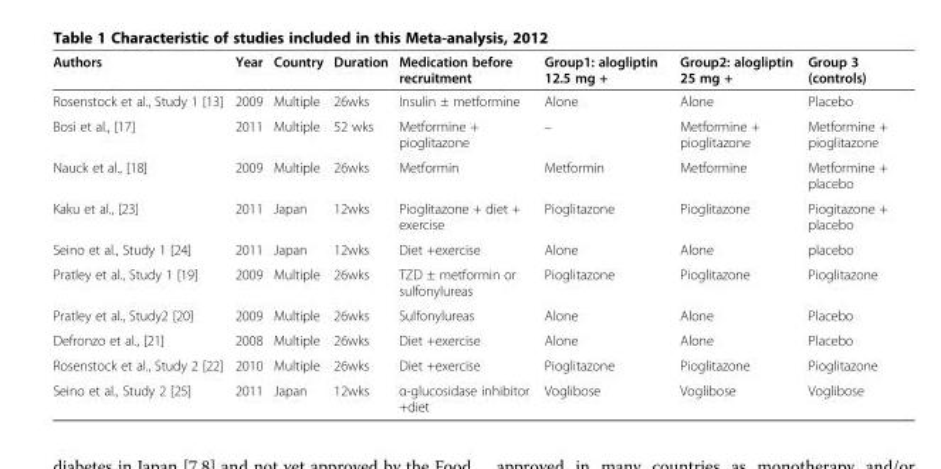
<table><thead><tr><td>Authors</td><td>Year</td><td>Country</td><td>Duration</td><td>Medication before recruitment</td><td>Group1: alogliptin 12.5 mg +</td><td>Group2: alogliptin 25 mg +</td><td>Group 3 (controls)</td></tr></thead><tbody><tr><td>Rosenstock et al., Study 1 [13]</td><td>2009</td><td>Multiple</td><td>26wks</td><td>Insulin ± metformine</td><td>Alone</td><td>Alone</td><td>Placebo</td></tr><tr><td>Bosi et al., [17]</td><td>2011</td><td>Multiple</td><td>52 wks</td><td>Metformine + pioglitazone</td><td>–</td><td>Metformine + pioglitazone</td><td>Metformine + pioglitazone</td></tr><tr><td>Nauck et al., [18]</td><td>2009</td><td>Multiple</td><td>26wks</td><td>Metformin</td><td>Metformin</td><td>Metformine</td><td>Metformine + placebo</td></tr><tr><td>Kaku et al., [23]</td><td>2011</td><td>Japan</td><td>12wks</td><td>Pioglitazone + diet + exercise</td><td>Pioglitazone</td><td>Pioglitazone</td><td>Piogitazone + placebo</td></tr><tr><td>Seino et al., Study 1 [24]</td><td>2011</td><td>Japan</td><td>12wks</td><td>Diet +exercise</td><td>Alone</td><td>Alone</td><td>placebo</td></tr><tr><td>Pratley et al., Study 1 [19]</td><td>2009</td><td>Multiple</td><td>26wks</td><td>TZD ± metformin or sulfonylureas</td><td>Pioglitazone</td><td>Pioglitazone</td><td>Pioglitazone</td></tr><tr><td>Pratley et al., Study2 [20]</td><td>2009</td><td>Multiple</td><td>26wks</td><td>Sulfonylureas</td><td>Alone</td><td>Alone</td><td>Placebo</td></tr><tr><td>Defronzo et al., [21]</td><td>2008</td><td>Multiple</td><td>26wks</td><td>Diet +exercise</td><td>Alone</td><td>Alone</td><td>Placebo</td></tr><tr><td>Rosenstock et al., Study 2 [22]</td><td>2010</td><td>Multiple</td><td>26wks</td><td>Diet +exercise</td><td>Pioglitazone</td><td>Pioglitazone</td><td>Pioglitazone</td></tr><tr><td>Seino et al., Study 2 [25]</td><td>2011</td><td>Japan</td><td>12wks</td><td>α-glucosidase inhibitor +diet</td><td>Voglibose</td><td>Voglibose</td><td>Voglibose</td></tr></tbody></table>